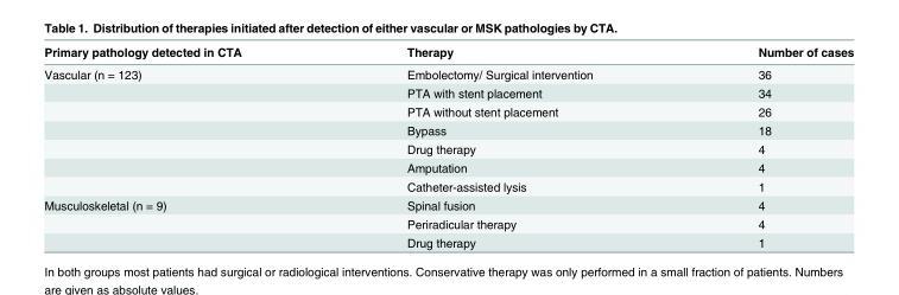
<table><thead><tr><td>Primary pathology detected in CTA</td><td>Therapy</td><td>Number of cases</td></tr></thead><tbody><tr><td rowspan="7">Vascular (n = 123)</td><td>Embolectomy/ Surgical intervention</td><td>36</td></tr><tr><td>PTA with stent placement</td><td>34</td></tr><tr><td>PTA without stent placement</td><td>26</td></tr><tr><td>Bypass</td><td>18</td></tr><tr><td>Drug therapy</td><td>4</td></tr><tr><td>Amputation</td><td>4</td></tr><tr><td>Catheter-assisted lysis</td><td>1</td></tr><tr><td rowspan="3">Musculoskeletal (n = 9)</td><td>Spinal fusion</td><td>4</td></tr><tr><td>Periradicular therapy</td><td>4</td></tr><tr><td>Drug therapy</td><td>1</td></tr></tbody></table>